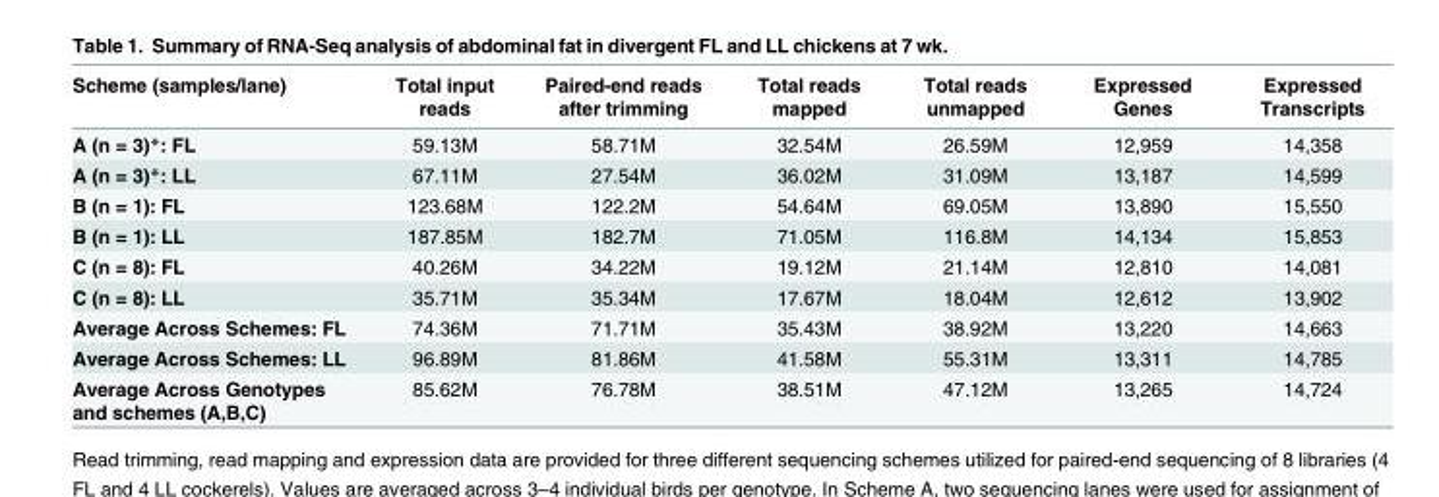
<table><thead><tr><td>Scheme (samples/lane)</td><td>Total input reads</td><td>Paired-end reads after trimming</td><td>Total reads mapped</td><td>Total reads unmapped</td><td>Expressed Genes</td><td>Expressed Transcripts</td></tr></thead><tbody><tr><td>A (n = 3)*: FL</td><td>59.13M</td><td>58.71M</td><td>32.54M</td><td>26.59M</td><td>12,959</td><td>14,358</td></tr><tr><td>A (n = 3)*: LL</td><td>67.11M</td><td>27.54M</td><td>36.02M</td><td>31.09M</td><td>13,187</td><td>14,599</td></tr><tr><td>B (n = 1): FL</td><td>123.68M</td><td>122.2M</td><td>54.64M</td><td>69.05M</td><td>13,890</td><td>15,550</td></tr><tr><td>B (n = 1): LL</td><td>187.85M</td><td>182.7M</td><td>71.05M</td><td>116.8M</td><td>14,134</td><td>15,853</td></tr><tr><td>C (n = 8): FL</td><td>40.26M</td><td>34.22M</td><td>19.12M</td><td>21.14M</td><td>12,810</td><td>14,081</td></tr><tr><td>C (n = 8): LL</td><td>35.71M</td><td>35.34M</td><td>17.67M</td><td>18.04M</td><td>12,612</td><td>13,902</td></tr><tr><td>Average Across Schemes: FL</td><td>74.36M</td><td>71.71M</td><td>35.43M</td><td>38.92M</td><td>13,220</td><td>14,663</td></tr><tr><td>Average Across Schemes: LL</td><td>96.89M</td><td>81.86M</td><td>41.58M</td><td>55.31M</td><td>13,311</td><td>14,785</td></tr><tr><td>Average Across Genotypes and schemes (A,B,C)</td><td>85.62M</td><td>76.78M</td><td>38.51M</td><td>47.12M</td><td>13,265</td><td>14,724</td></tr></tbody></table>